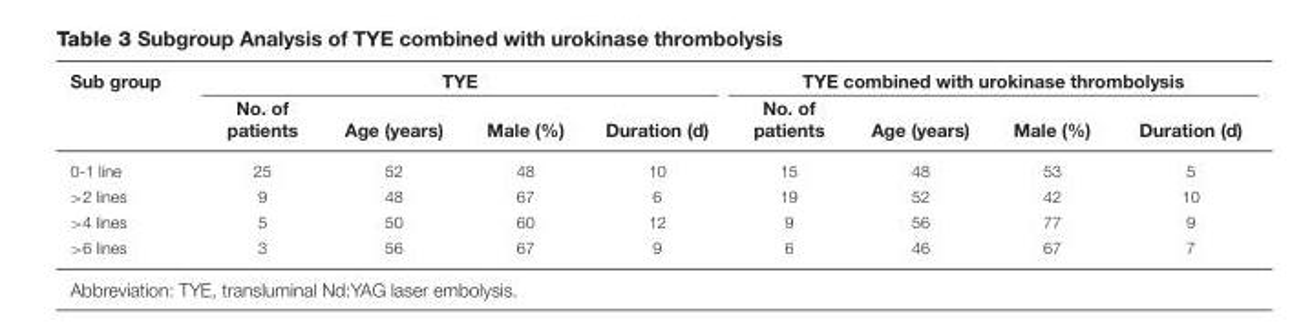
<table><thead><tr><td rowspan="2">Sub group</td><td colspan="4">TYE</td><td colspan="4">TYE combined with urokinase thrombolysis</td></tr><tr><td>No. of patients</td><td>Age (years)</td><td>Male (%)</td><td>Duration (d)</td><td>No. of patients</td><td>Age (years)</td><td>Male (%)</td><td>Duration (d)</td></tr></thead><tbody><tr><td>0-1 line</td><td>25</td><td>52</td><td>48</td><td>10</td><td>15</td><td>48</td><td>53</td><td>5</td></tr><tr><td>&gt;2 lines</td><td>9</td><td>48</td><td>67</td><td>6</td><td>19</td><td>52</td><td>42</td><td>10</td></tr><tr><td>&gt;4 lines</td><td>5</td><td>50</td><td>60</td><td>12</td><td>9</td><td>56</td><td>77</td><td>9</td></tr><tr><td>&gt;6 lines</td><td>3</td><td>56</td><td>67</td><td>9</td><td>6</td><td>46</td><td>67</td><td>7</td></tr></tbody></table>